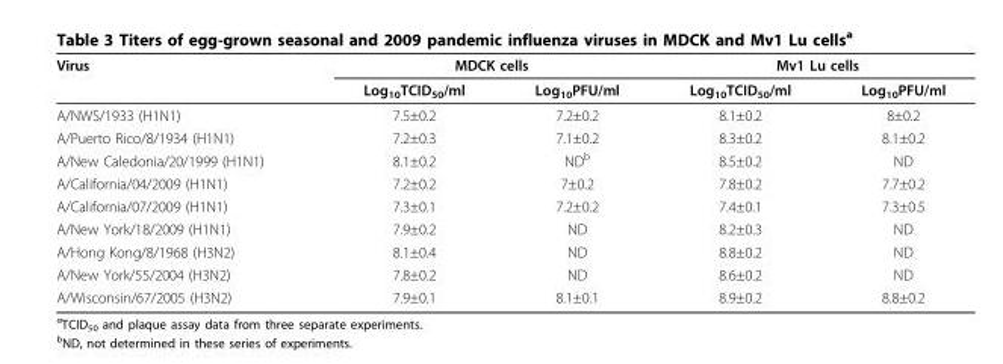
<table><thead><tr><td rowspan="2">Virus</td><td colspan="2">MDCK cells</td><td colspan="2">Mv1 Lu cells</td></tr><tr><td>Log<sub>10</sub>TCID<sub>50</sub>/ml</td><td>Log<sub>10</sub>PFU/ml</td><td>Log<sub>10</sub>TCID<sub>50</sub>/ml</td><td>Log<sub>10</sub>PFU/ml</td></tr></thead><tbody><tr><td>A/NWS/1933 (H1N1)</td><td>7.5±0.2</td><td>7.2±0.2</td><td>8.1±0.2</td><td>8±0.2</td></tr><tr><td>A/Puerto Rico/8/1934 (H1N1)</td><td>7.2±0.3</td><td>7.1±0.2</td><td>8.3±0.2</td><td>8.1±0.2</td></tr><tr><td>A/New Caledonia/20/1999 (H1N1)</td><td>8.1±0.2</td><td>ND<sup>b</sup></td><td>8.5±0.2</td><td>ND</td></tr><tr><td>A/California/04/2009 (H1N1)</td><td>7.2±0.2</td><td>7±0.2</td><td>7.8±0.2</td><td>7.7±0.2</td></tr><tr><td>A/California/07/2009 (H1N1)</td><td>7.3±0.1</td><td>7.2±0.2</td><td>7.4±0.1</td><td>7.3±0.5</td></tr><tr><td>A/New York/18/2009 (H1N1)</td><td>7.9±0.2</td><td>ND</td><td>8.2±0.3</td><td>ND</td></tr><tr><td>A/Hong Kong/8/1968 (H3N2)</td><td>8.1±0.4</td><td>ND</td><td>8.8±0.2</td><td>ND</td></tr><tr><td>A/New York/55/2004 (H3N2)</td><td>7.8±0.2</td><td>ND</td><td>8.6±0.2</td><td>ND</td></tr><tr><td>A/Wisconsin/67/2005 (H3N2)</td><td>7.9±0.1</td><td>8.1±0.1</td><td>8.9±0.2</td><td>8.8±0.2</td></tr></tbody></table>